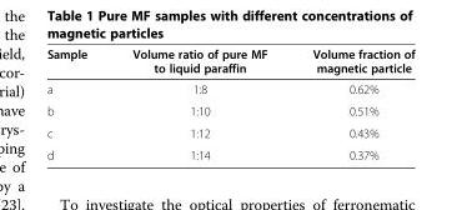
<table><thead><tr><td>Sample</td><td>Volume ratio of pure MF to liquid paraffin</td><td>Volume fraction of magnetic particle</td></tr></thead><tbody><tr><td>a</td><td>1:8</td><td>0.62%</td></tr><tr><td>b</td><td>1:10</td><td>0.51%</td></tr><tr><td>c</td><td>1:12</td><td>0.43%</td></tr><tr><td>d</td><td>1:14</td><td>0.37%</td></tr></tbody></table>